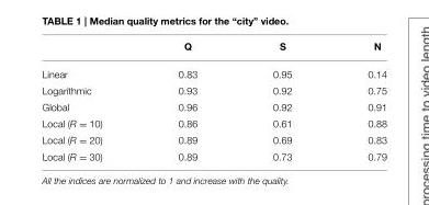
<table><thead><tr><td></td><td>Q</td><td>S</td><td>N</td></tr></thead><tbody><tr><td>Linear</td><td>0.83</td><td>0.95</td><td>0.14</td></tr><tr><td>Logarithmic</td><td>0.93</td><td>0.92</td><td>0.75</td></tr><tr><td>Global</td><td>0.96</td><td>0.92</td><td>0.91</td></tr><tr><td>Local (R = 10)</td><td>0.86</td><td>0.61</td><td>0.88</td></tr><tr><td>Local (R = 20)</td><td>0.89</td><td>0.69</td><td>0.83</td></tr><tr><td>Local (R = 30)</td><td>0.89</td><td>0.73</td><td>0.79</td></tr></tbody></table>